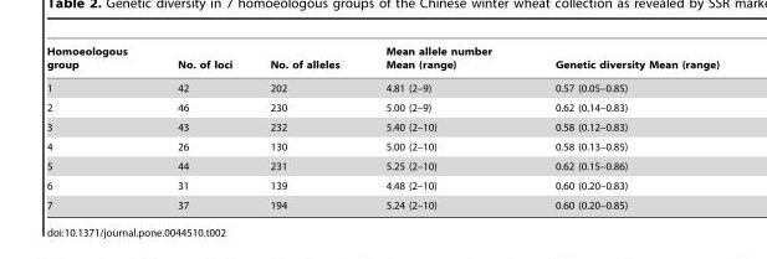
<table><thead><tr><td>Homoeologous group</td><td>No. of loci</td><td>No. of alleles</td><td>Mean allele number Mean (range)</td><td>Genetic diversity Mean (range)</td></tr></thead><tbody><tr><td>1</td><td>42</td><td>202</td><td>4.81 (2–9)</td><td>0.57 (0.05–0.85)</td></tr><tr><td>2</td><td>46</td><td>230</td><td>5.00 (2–9)</td><td>0.62 (0.14–0.83)</td></tr><tr><td>3</td><td>43</td><td>232</td><td>5.40 (2–10)</td><td>0.58 (0.12–0.83)</td></tr><tr><td>4</td><td>26</td><td>130</td><td>5.00 (2–10)</td><td>0.58 (0.13–0.85)</td></tr><tr><td>5</td><td>44</td><td>231</td><td>5.25 (2–10)</td><td>0.62 (0.15–0.86)</td></tr><tr><td>6</td><td>31</td><td>139</td><td>4.48 (2–10)</td><td>0.60 (0.20–0.83)</td></tr><tr><td>7</td><td>37</td><td>194</td><td>5.24 (2–10)</td><td>0.60 (0.20–0.85)</td></tr></tbody></table>